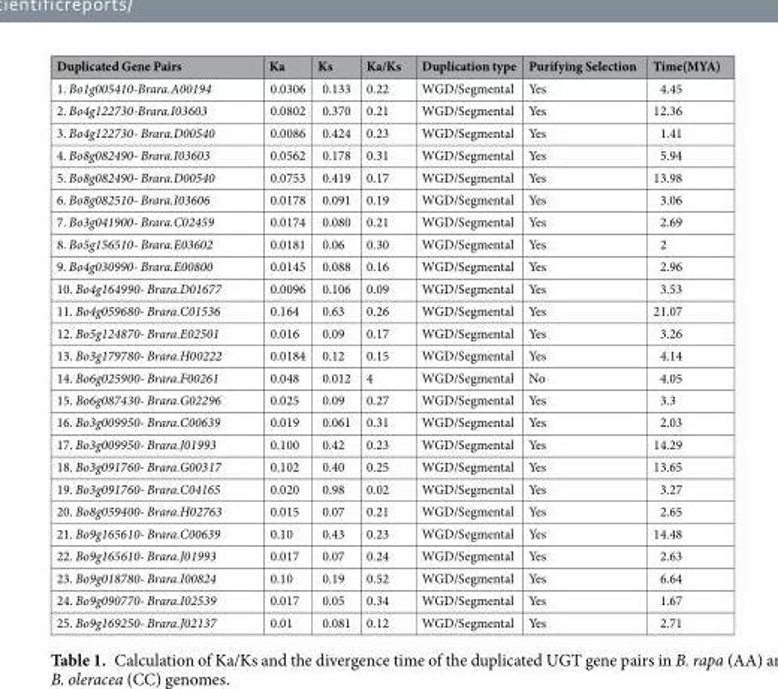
<table><thead><tr><td>Duplicated Gene Pairs</td><td>Ka</td><td>Ks</td><td>Ka/Ks</td><td>Duplication type</td><td>Purifying Selection</td><td>Time(MYA)</td></tr></thead><tbody><tr><td>1. Bo1g005410-Brara.A00194</td><td>0.0306</td><td>0.133</td><td>0.22</td><td>WGD/Segmental</td><td>Yes</td><td>4.45</td></tr><tr><td>2. Bo4g122730-Brara.I03603</td><td>0.0802</td><td>0.370</td><td>0.21</td><td>WGD/Segmental</td><td>Yes</td><td>12.36</td></tr><tr><td>3. Bo4g122730- Brara.D00540</td><td>0.0086</td><td>0.424</td><td>0.23</td><td>WGD/Segmental</td><td>Yes</td><td>1.41</td></tr><tr><td>4. Bo8g082490- Brara.I03603</td><td>0.0562</td><td>0.178</td><td>0.31</td><td>WGD/Segmental</td><td>Yes</td><td>5.94</td></tr><tr><td>5. Bo8g082490- Brara.D00540</td><td>0.0753</td><td>0.419</td><td>0.17</td><td>WGD/Segmental</td><td>Yes</td><td>13.98</td></tr><tr><td>6. Bo8g082510- Brara.I03606</td><td>0.0178</td><td>0.091</td><td>0.19</td><td>WGD/Segmental</td><td>Yes</td><td>3.06</td></tr><tr><td>7. Bo3g041900- Brara.C02459</td><td>0.0174</td><td>0.080</td><td>0.21</td><td>WGD/Segmental</td><td>Yes</td><td>2.69</td></tr><tr><td>8. Bo5g156510- Brara.E03602</td><td>0.0181</td><td>0.06</td><td>0.30</td><td>WGD/Segmental</td><td>Yes</td><td>2</td></tr><tr><td>9. Bo4g030990- Brara.E00800</td><td>0.0145</td><td>0.088</td><td>0.16</td><td>WGD/Segmental</td><td>Yes</td><td>2.96</td></tr><tr><td>10. Bo4g164990- Brara.D01677</td><td>0.0096</td><td>0.106</td><td>0.09</td><td>WGD/Segmental</td><td>Yes</td><td>3.53</td></tr><tr><td>11. Bo4g059680- Brara.C01536</td><td>0.164</td><td>0.63</td><td>0.26</td><td>WGD/Segmental</td><td>Yes</td><td>21.07</td></tr><tr><td>12. Bo5g124870- Brara.E02501</td><td>0.016</td><td>0.09</td><td>0.17</td><td>WGD/Segmental</td><td>Yes</td><td>3.26</td></tr><tr><td>13. Bo3g179780- Brara.H00222</td><td>0.0184</td><td>0.12</td><td>0.15</td><td>WGD/Segmental</td><td>Yes</td><td>4.14</td></tr><tr><td>14. Bo6g025900- Brara.F00261</td><td>0.048</td><td>0.012</td><td>4</td><td>WGD/Segmental</td><td>No</td><td>4.05</td></tr><tr><td>15. Bo6g087430- Brara.G02296</td><td>0.025</td><td>0.09</td><td>0.27</td><td>WGD/Segmental</td><td>Yes</td><td>3.3</td></tr><tr><td>16. Bo3g009950- Brara.C00639</td><td>0.019</td><td>0.061</td><td>0.31</td><td>WGD/Segmental</td><td>Yes</td><td>2.03</td></tr><tr><td>17. Bo3g009950- Brara.J01993</td><td>0.100</td><td>0.42</td><td>0.23</td><td>WGD/Segmental</td><td>Yes</td><td>14.29</td></tr><tr><td>18. Bo3g091760- Brara.G00317</td><td>0.102</td><td>0.40</td><td>0.25</td><td>WGD/Segmental</td><td>Yes</td><td>13.65</td></tr><tr><td>19. Bo3g091760- Brara.C04165</td><td>0.020</td><td>0.98</td><td>0.02</td><td>WGD/Segmental</td><td>Yes</td><td>3.27</td></tr><tr><td>20. Bo8g059400- Brara.H02763</td><td>0.015</td><td>0.07</td><td>0.21</td><td>WGD/Segmental</td><td>Yes</td><td>2.65</td></tr><tr><td>21. Bo9g165610- Brara.C00639</td><td>0.10</td><td>0.43</td><td>0.23</td><td>WGD/Segmental</td><td>Yes</td><td>14.48</td></tr><tr><td>22. Bo9g165610- Brara.J01993</td><td>0.017</td><td>0.07</td><td>0.24</td><td>WGD/Segmental</td><td>Yes</td><td>2.63</td></tr><tr><td>23. Bo9g018780- Brara.I00824</td><td>0.10</td><td>0.19</td><td>0.52</td><td>WGD/Segmental</td><td>Yes</td><td>6.64</td></tr><tr><td>24. Bo9g090770- Brara.I02539</td><td>0.017</td><td>0.05</td><td>0.34</td><td>WGD/Segmental</td><td>Yes</td><td>1.67</td></tr><tr><td>25. Bo9g169250- Brara.J02137</td><td>0.01</td><td>0.081</td><td>0.12</td><td>WGD/Segmental</td><td>Yes</td><td>2.71</td></tr></tbody></table>